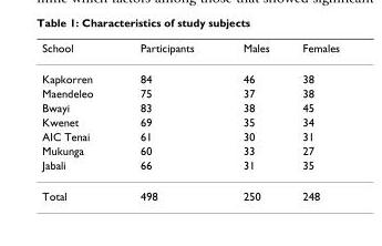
<table><thead><tr><td>School</td><td>Participants</td><td>Males</td><td>Females</td></tr></thead><tbody><tr><td>Kapkorren</td><td>84</td><td>46</td><td>38</td></tr><tr><td>Maendeleo</td><td>75</td><td>37</td><td>38</td></tr><tr><td>Bwayi</td><td>83</td><td>38</td><td>45</td></tr><tr><td>Kwenet</td><td>69</td><td>35</td><td>34</td></tr><tr><td>AIC Tenai</td><td>61</td><td>30</td><td>31</td></tr><tr><td>Mukunga</td><td>60</td><td>33</td><td>27</td></tr><tr><td>Jabali</td><td>66</td><td>31</td><td>35</td></tr><tr><td>Total</td><td>498</td><td>250</td><td>248</td></tr></tbody></table>